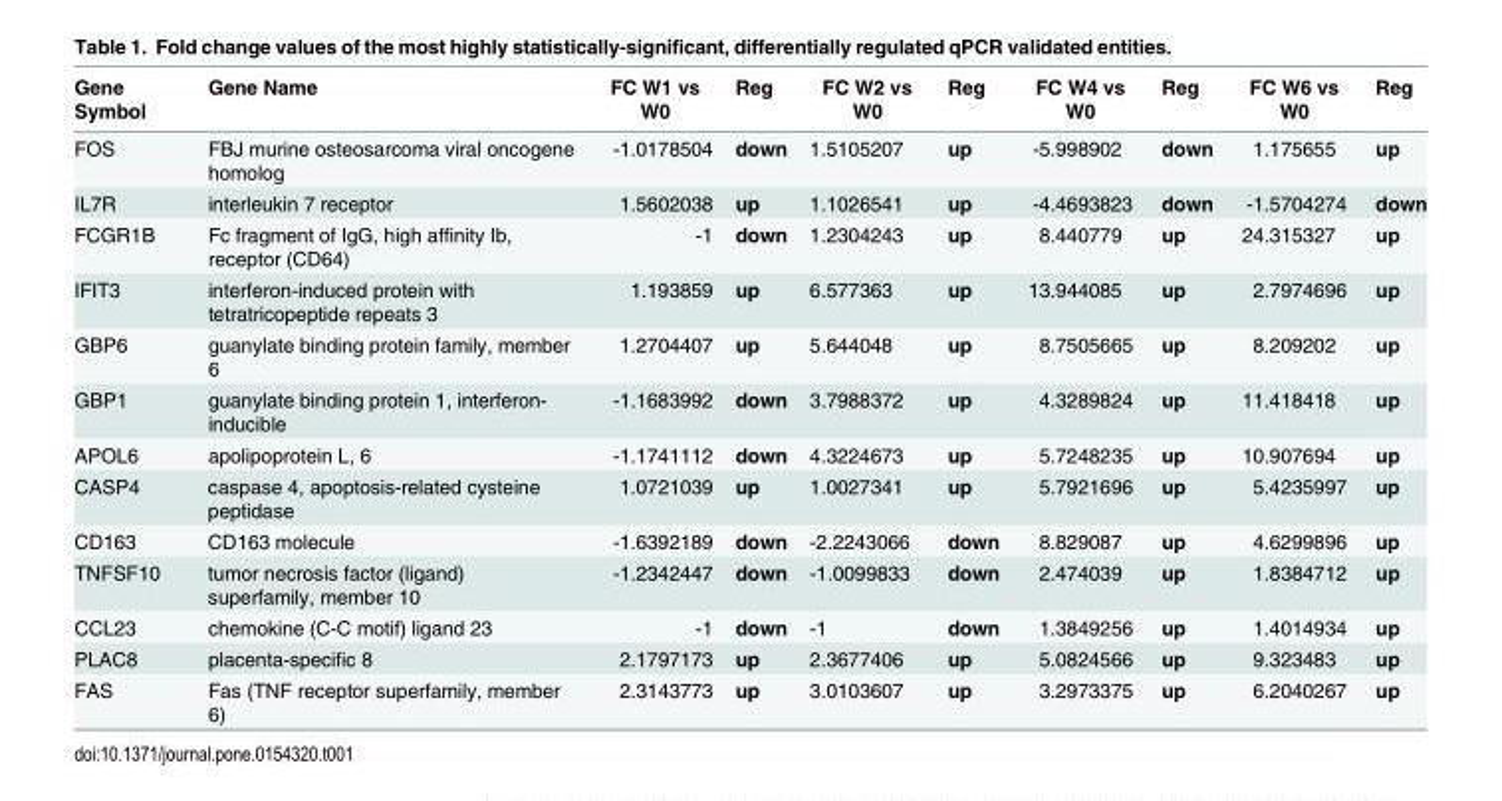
<table><thead><tr><td>Gene Symbol</td><td>Gene Name</td><td>FC W1 vs W0</td><td>Reg</td><td>FC W2 vs W0</td><td>Reg</td><td>FC W4 vs W0</td><td>Reg</td><td>FC W6 vs W0</td><td>Reg</td></tr></thead><tbody><tr><td>FOS</td><td>FBJ murine osteosarcoma viral oncogene homolog</td><td>-1.0178504</td><td>down</td><td>1.5105207</td><td>up</td><td>-5.998902</td><td>down</td><td>1.175655</td><td>up</td></tr><tr><td>IL7R</td><td>interleukin 7 receptor</td><td>1.5602038</td><td>up</td><td>1.1026541</td><td>up</td><td>-4.4693823</td><td>down</td><td>-1.5704274</td><td>down</td></tr><tr><td>FCGR1B</td><td>Fc fragment of IgG, high affinity Ib, receptor (CD64)</td><td>-1</td><td>down</td><td>1.2304243</td><td>up</td><td>8.440779</td><td>up</td><td>24.315327</td><td>up</td></tr><tr><td>IFIT3</td><td>interferon-induced protein with tetratricopeptide repeats 3</td><td>1.193859</td><td>up</td><td>6.577363</td><td>up</td><td>13.944085</td><td>up</td><td>2.7974696</td><td>up</td></tr><tr><td>GBP6</td><td>guanylate binding protein family, member 6</td><td>1.2704407</td><td>up</td><td>5.644048</td><td>up</td><td>8.7505665</td><td>up</td><td>8.209202</td><td>up</td></tr><tr><td>GBP1</td><td>guanylate binding protein 1, interferon- inducible</td><td>-1.1683992</td><td>down</td><td>3.7988372</td><td>up</td><td>4.3289824</td><td>up</td><td>11.418418</td><td>up</td></tr><tr><td>APOL6</td><td>apolipoprotein L, 6</td><td>-1.1741112</td><td>down</td><td>4.3224673</td><td>up</td><td>5.7248235</td><td>up</td><td>10.907694</td><td>up</td></tr><tr><td>CASP4</td><td>caspase 4, apoptosis-related cysteine peptidase</td><td>1.0721039</td><td>up</td><td>1.0027341</td><td>up</td><td>5.7921696</td><td>up</td><td>5.4235997</td><td>up</td></tr><tr><td>CD163</td><td>CD163 molecule</td><td>-1.6392189</td><td>down</td><td>-2.2243066</td><td>down</td><td>8.829087</td><td>up</td><td>4.6299896</td><td>up</td></tr><tr><td>TNFSF10</td><td>tumor necrosis factor (ligand) superfamily, member 10</td><td>-1.2342447</td><td>down</td><td>-1.0099833</td><td>down</td><td>2.474039</td><td>up</td><td>1.8384712</td><td>up</td></tr><tr><td>CCL23</td><td>chemokine (C-C motif) ligand 23</td><td>-1</td><td>down</td><td>-1</td><td>down</td><td>1.3849256</td><td>up</td><td>1.4014934</td><td>up</td></tr><tr><td>PLAC8</td><td>placenta-specific 8</td><td>2.1797173</td><td>up</td><td>2.3677406</td><td>up</td><td>5.0824566</td><td>up</td><td>9.323483</td><td>up</td></tr><tr><td>FAS</td><td>Fas (TNF receptor superfamily, member 6)</td><td>2.3143773</td><td>up</td><td>3.0103607</td><td>up</td><td>3.2973375</td><td>up</td><td>6.2040267</td><td>up</td></tr></tbody></table>